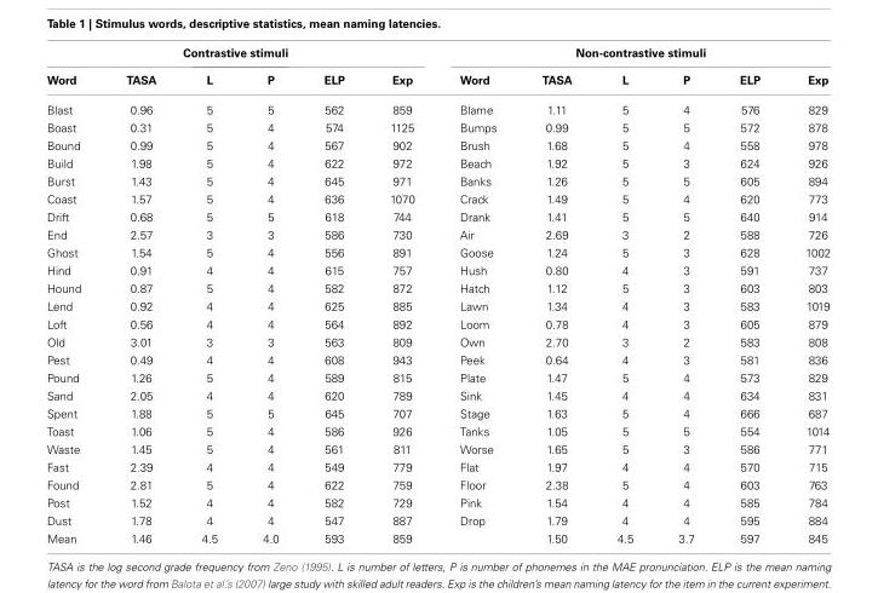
<table><thead><tr><td colspan="6">Contrastive stimuli</td><td colspan="6">Non-contrastive stimuli</td></tr><tr><td>Word</td><td>TASA</td><td>L</td><td>P</td><td>ELP</td><td>Exp</td><td>Word</td><td>TASA</td><td>L</td><td>P</td><td>ELP</td><td>Exp</td></tr></thead><tbody><tr><td>Blast</td><td>0.96</td><td>5</td><td>5</td><td>562</td><td>859</td><td>Blame</td><td>1.11</td><td>5</td><td>4</td><td>576</td><td>829</td></tr><tr><td>Boast</td><td>0.31</td><td>5</td><td>4</td><td>574</td><td>1125</td><td>Bumps</td><td>0.99</td><td>5</td><td>5</td><td>572</td><td>878</td></tr><tr><td>Bound</td><td>0.99</td><td>5</td><td>4</td><td>567</td><td>902</td><td>Brush</td><td>1.68</td><td>5</td><td>4</td><td>558</td><td>978</td></tr><tr><td>Build</td><td>1.98</td><td>5</td><td>4</td><td>622</td><td>972</td><td>Beach</td><td>1.92</td><td>5</td><td>3</td><td>624</td><td>926</td></tr><tr><td>Burst</td><td>1.43</td><td>5</td><td>4</td><td>645</td><td>971</td><td>Banks</td><td>1.26</td><td>5</td><td>5</td><td>605</td><td>894</td></tr><tr><td>Coast</td><td>1.57</td><td>5</td><td>4</td><td>636</td><td>1070</td><td>Crack</td><td>1.49</td><td>5</td><td>4</td><td>620</td><td>773</td></tr><tr><td>Drift</td><td>0.68</td><td>5</td><td>5</td><td>618</td><td>744</td><td>Drank</td><td>1.41</td><td>5</td><td>5</td><td>640</td><td>914</td></tr><tr><td>End</td><td>2.57</td><td>3</td><td>3</td><td>586</td><td>730</td><td>Air</td><td>2.69</td><td>3</td><td>2</td><td>588</td><td>726</td></tr><tr><td>Ghost</td><td>1.54</td><td>5</td><td>4</td><td>556</td><td>891</td><td>Goose</td><td>1.24</td><td>5</td><td>3</td><td>628</td><td>1002</td></tr><tr><td>Hind</td><td>0.91</td><td>4</td><td>4</td><td>615</td><td>757</td><td>Hush</td><td>0.80</td><td>4</td><td>3</td><td>591</td><td>737</td></tr><tr><td>Hound</td><td>0.87</td><td>5</td><td>4</td><td>582</td><td>872</td><td>Hatch</td><td>1.12</td><td>5</td><td>3</td><td>603</td><td>803</td></tr><tr><td>Lend</td><td>0.92</td><td>4</td><td>4</td><td>625</td><td>885</td><td>Lawn</td><td>1.34</td><td>4</td><td>3</td><td>583</td><td>1019</td></tr><tr><td>Loft</td><td>0.56</td><td>4</td><td>4</td><td>564</td><td>892</td><td>Loom</td><td>0.78</td><td>4</td><td>3</td><td>605</td><td>879</td></tr><tr><td>Old</td><td>3.01</td><td>3</td><td>3</td><td>563</td><td>809</td><td>Own</td><td>2.70</td><td>3</td><td>2</td><td>583</td><td>808</td></tr><tr><td>Pest</td><td>0.49</td><td>4</td><td>4</td><td>608</td><td>943</td><td>Peek</td><td>0.64</td><td>4</td><td>3</td><td>581</td><td>836</td></tr><tr><td>Pound</td><td>1.26</td><td>5</td><td>4</td><td>589</td><td>815</td><td>Plate</td><td>1.47</td><td>5</td><td>4</td><td>573</td><td>829</td></tr><tr><td>Sand</td><td>2.05</td><td>4</td><td>4</td><td>620</td><td>789</td><td>Sink</td><td>1.45</td><td>4</td><td>4</td><td>634</td><td>831</td></tr><tr><td>Spent</td><td>1.88</td><td>5</td><td>5</td><td>645</td><td>707</td><td>Stage</td><td>1.63</td><td>5</td><td>4</td><td>666</td><td>687</td></tr><tr><td>Toast</td><td>1.06</td><td>5</td><td>4</td><td>586</td><td>926</td><td>Tanks</td><td>1.05</td><td>5</td><td>5</td><td>554</td><td>1014</td></tr><tr><td>Waste</td><td>1.45</td><td>5</td><td>4</td><td>561</td><td>811</td><td>Worse</td><td>1.65</td><td>5</td><td>3</td><td>586</td><td>771</td></tr><tr><td>Fast</td><td>2.39</td><td>4</td><td>4</td><td>549</td><td>779</td><td>Flat</td><td>1.97</td><td>4</td><td>4</td><td>570</td><td>715</td></tr><tr><td>Found</td><td>2.81</td><td>5</td><td>4</td><td>622</td><td>759</td><td>Floor</td><td>2.38</td><td>5</td><td>4</td><td>603</td><td>763</td></tr><tr><td>Post</td><td>1.52</td><td>4</td><td>4</td><td>582</td><td>729</td><td>Pink</td><td>1.54</td><td>4</td><td>4</td><td>585</td><td>784</td></tr><tr><td>Dust</td><td>1.78</td><td>4</td><td>4</td><td>547</td><td>887</td><td>Drop</td><td>1.79</td><td>4</td><td>4</td><td>595</td><td>884</td></tr><tr><td>Mean</td><td>1.46</td><td>4.5</td><td>4.0</td><td>593</td><td>859</td><td></td><td>1.50</td><td>4.5</td><td>3.7</td><td>597</td><td>845</td></tr></tbody></table>